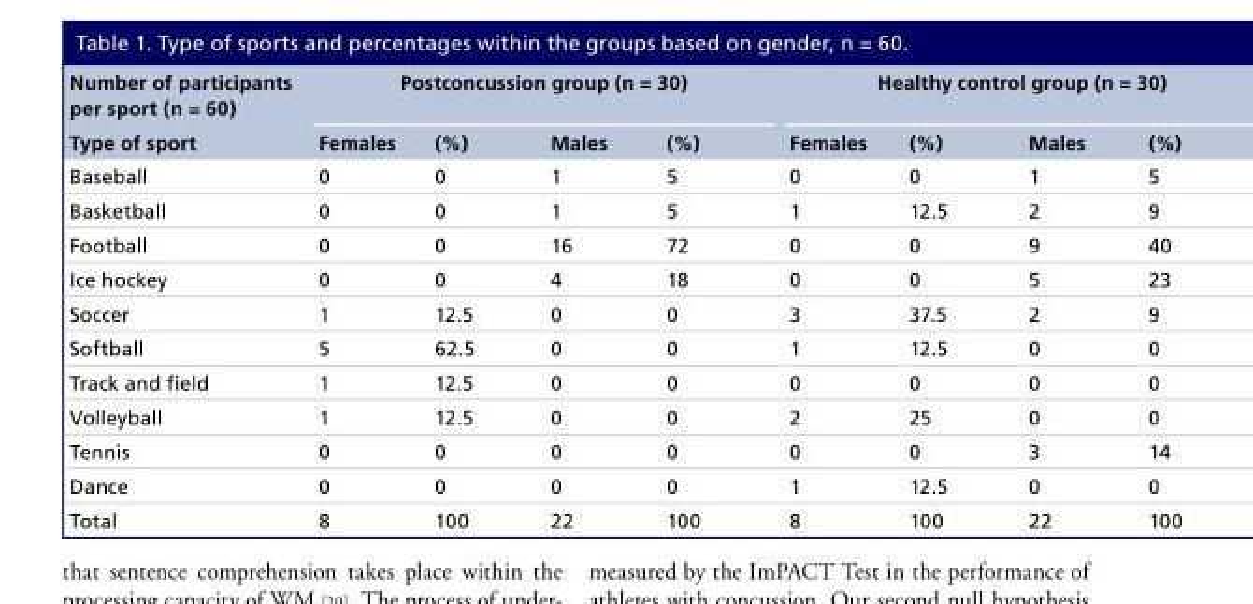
<table><thead><tr><td rowspan="2">Number of participants per sport (n = 60) Type of sport</td><td colspan="4">Postconcussion group (n = 30)</td><td colspan="4">Healthy control group (n = 30)</td></tr><tr><td>Females</td><td>(%)</td><td>Males</td><td>(%)</td><td>Females</td><td>(%)</td><td>Males</td><td>(%)</td></tr></thead><tbody><tr><td>Baseball</td><td>0</td><td>0</td><td>1</td><td>5</td><td>0</td><td>0</td><td>1</td><td>5</td></tr><tr><td>Basketball</td><td>0</td><td>0</td><td>1</td><td>5</td><td>1</td><td>12.5</td><td>2</td><td>9</td></tr><tr><td>Football</td><td>0</td><td>0</td><td>16</td><td>72</td><td>0</td><td>0</td><td>9</td><td>40</td></tr><tr><td>Ice hockey</td><td>0</td><td>0</td><td>4</td><td>18</td><td>0</td><td>0</td><td>5</td><td>23</td></tr><tr><td>Soccer</td><td>1</td><td>12.5</td><td>0</td><td>0</td><td>3</td><td>37.5</td><td>2</td><td>9</td></tr><tr><td>Softball</td><td>5</td><td>62.5</td><td>0</td><td>0</td><td>1</td><td>12.5</td><td>0</td><td>0</td></tr><tr><td>Track and field</td><td>1</td><td>12.5</td><td>0</td><td>0</td><td>0</td><td>0</td><td>0</td><td>0</td></tr><tr><td>Volleyball</td><td>1</td><td>12.5</td><td>0</td><td>0</td><td>2</td><td>25</td><td>0</td><td>0</td></tr><tr><td>Tennis</td><td>0</td><td>0</td><td>0</td><td>0</td><td>0</td><td>0</td><td>3</td><td>14</td></tr><tr><td>Dance</td><td>0</td><td>0</td><td>0</td><td>0</td><td>1</td><td>12.5</td><td>0</td><td>0</td></tr><tr><td>Total</td><td>8</td><td>100</td><td>22</td><td>100</td><td>8</td><td>100</td><td>22</td><td>100</td></tr></tbody></table>